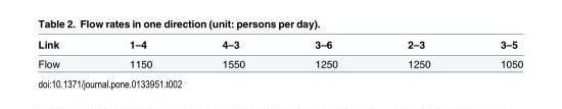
<table><thead><tr><td>Link</td><td>1–4</td><td>4–3</td><td>3–6</td><td>2–3</td><td>3–5</td></tr></thead><tbody><tr><td>Flow</td><td>1150</td><td>1550</td><td>1250</td><td>1250</td><td>1050</td></tr></tbody></table>